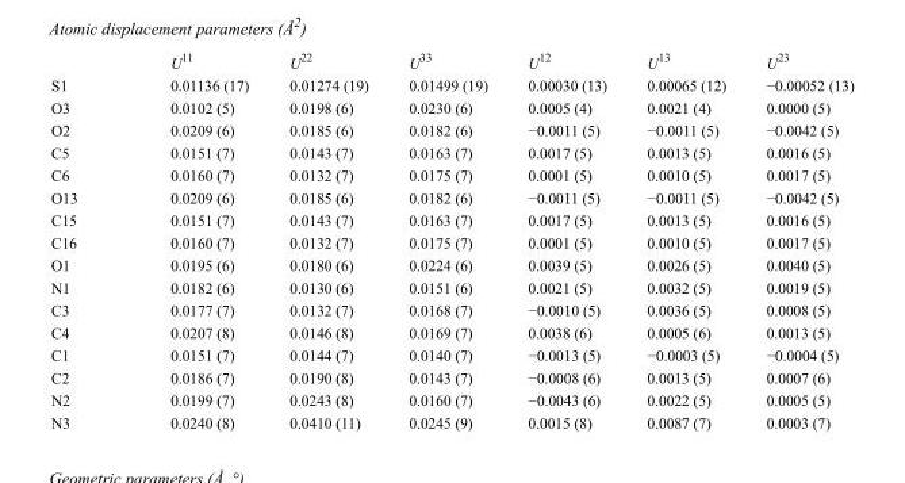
<table><thead><tr><td></td><td>U<sup>11</sup></td><td>U<sup>22</sup></td><td>U<sup>33</sup></td><td>U<sup>12</sup></td><td>U<sup>13</sup></td><td>U<sup>23</sup></td></tr></thead><tbody><tr><td>S1</td><td>0.01136 (17)</td><td>0.01274 (19)</td><td>0.01499 (19)</td><td>0.00030 (13)</td><td>0.00065 (12)</td><td>−0.00052 (13)</td></tr><tr><td>O3</td><td>0.0102 (5)</td><td>0.0198 (6)</td><td>0.0230 (6)</td><td>0.0005 (4)</td><td>0.0021 (4)</td><td>0.0000 (5)</td></tr><tr><td>O2</td><td>0.0209 (6)</td><td>0.0185 (6)</td><td>0.0182 (6)</td><td>−0.0011 (5)</td><td>−0.0011 (5)</td><td>−0.0042 (5)</td></tr><tr><td>C5</td><td>0.0151 (7)</td><td>0.0143 (7)</td><td>0.0163 (7)</td><td>0.0017 (5)</td><td>0.0013 (5)</td><td>0.0016 (5)</td></tr><tr><td>C6</td><td>0.0160 (7)</td><td>0.0132 (7)</td><td>0.0175 (7)</td><td>0.0001 (5)</td><td>0.0010 (5)</td><td>0.0017 (5)</td></tr><tr><td>O13</td><td>0.0209 (6)</td><td>0.0185 (6)</td><td>0.0182 (6)</td><td>−0.0011 (5)</td><td>−0.0011 (5)</td><td>−0.0042 (5)</td></tr><tr><td>C15</td><td>0.0151 (7)</td><td>0.0143 (7)</td><td>0.0163 (7)</td><td>0.0017 (5)</td><td>0.0013 (5)</td><td>0.0016 (5)</td></tr><tr><td>C16</td><td>0.0160 (7)</td><td>0.0132 (7)</td><td>0.0175 (7)</td><td>0.0001 (5)</td><td>0.0010 (5)</td><td>0.0017 (5)</td></tr><tr><td>O1</td><td>0.0195 (6)</td><td>0.0180 (6)</td><td>0.0224 (6)</td><td>0.0039 (5)</td><td>0.0026 (5)</td><td>0.0040 (5)</td></tr><tr><td>N1</td><td>0.0182 (6)</td><td>0.0130 (6)</td><td>0.0151 (6)</td><td>0.0021 (5)</td><td>0.0032 (5)</td><td>0.0019 (5)</td></tr><tr><td>C3</td><td>0.0177 (7)</td><td>0.0132 (7)</td><td>0.0168 (7)</td><td>−0.0010 (5)</td><td>0.0036 (5)</td><td>0.0008 (5)</td></tr><tr><td>C4</td><td>0.0207 (8)</td><td>0.0146 (8)</td><td>0.0169 (7)</td><td>0.0038 (6)</td><td>0.0005 (6)</td><td>0.0013 (5)</td></tr><tr><td>C1</td><td>0.0151 (7)</td><td>0.0144 (7)</td><td>0.0140 (7)</td><td>−0.0013 (5)</td><td>−0.0003 (5)</td><td>−0.0004 (5)</td></tr><tr><td>C2</td><td>0.0186 (7)</td><td>0.0190 (8)</td><td>0.0143 (7)</td><td>−0.0008 (6)</td><td>0.0013 (5)</td><td>0.0007 (6)</td></tr><tr><td>N2</td><td>0.0199 (7)</td><td>0.0243 (8)</td><td>0.0160 (7)</td><td>−0.0043 (6)</td><td>0.0022 (5)</td><td>0.0005 (5)</td></tr><tr><td>N3</td><td>0.0240 (8)</td><td>0.0410 (11)</td><td>0.0245 (9)</td><td>0.0015 (8)</td><td>0.0087 (7)</td><td>0.0003 (7)</td></tr></tbody></table>